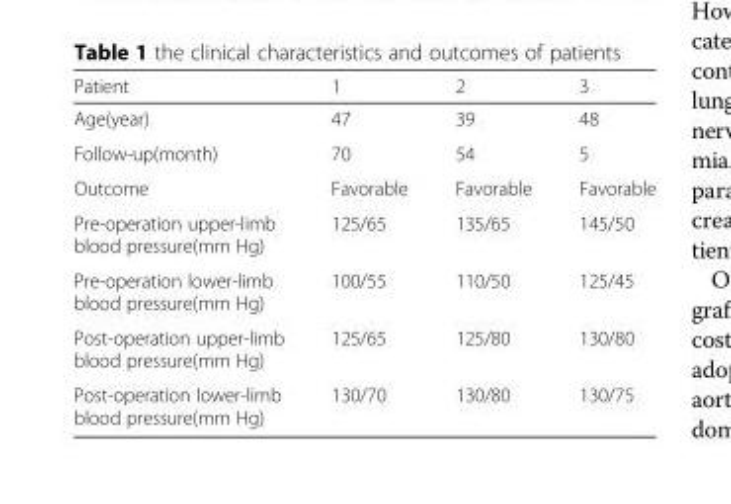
<table><thead><tr><td>Patient</td><td>1</td><td>2</td><td>3</td></tr></thead><tbody><tr><td>Age(year)</td><td>47</td><td>39</td><td>48</td></tr><tr><td>Follow-up(month)</td><td>70</td><td>54</td><td>5</td></tr><tr><td>Outcome</td><td>Favorable</td><td>Favorable</td><td>Favorable</td></tr><tr><td>Pre-operation upper-limb blood pressure(mm Hg)</td><td>125/65</td><td>135/65</td><td>145/50</td></tr><tr><td>Pre-operation lower-limb blood pressure(mm Hg)</td><td>100/55</td><td>110/50</td><td>125/45</td></tr><tr><td>Post-operation upper-limb blood pressure(mm Hg)</td><td>125/65</td><td>125/80</td><td>130/80</td></tr><tr><td>Post-operation lower-limb blood pressure(mm Hg)</td><td>130/70</td><td>130/80</td><td>130/75</td></tr></tbody></table>